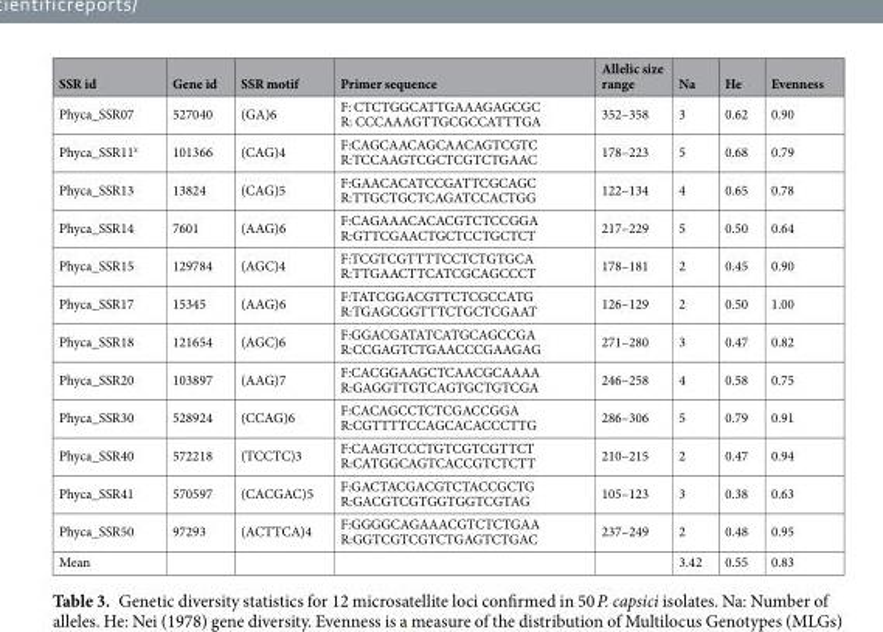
<table><thead><tr><td>SSR id</td><td>Gene id</td><td>SSR motif</td><td>Primer sequence</td><td>Allelic size range</td><td>Na</td><td>He</td><td>Evenness</td></tr></thead><tbody><tr><td>Phyca_SSR07</td><td>527040</td><td>(GA)6</td><td>F: CTCTGGCATTGAAAGAGCGC R: CCCAAAGTTGCGCCATTTGA</td><td>352–358</td><td>3</td><td>0.62</td><td>0.90</td></tr><tr><td>Phyca_SSR11<sup>z</sup></td><td>101366</td><td>(CAG)4</td><td>F:CAGCAACAGCAACAGTCGTC R:TCCAAGTCGCTCGTCTGAAC</td><td>178–223</td><td>5</td><td>0.68</td><td>0.79</td></tr><tr><td>Phyca_SSR13</td><td>13824</td><td>(CAG)5</td><td>F:GAACACATCCGATTCGCAGC R:TTGCTGCTCAGATCCACTGG</td><td>122–134</td><td>4</td><td>0.65</td><td>0.78</td></tr><tr><td>Phyca_SSR14</td><td>7601</td><td>(AAG)6</td><td>F:CAGAAACACACGTCTCCGGA R:GTTCGAACTGCTCCTGCTCT</td><td>217–229</td><td>5</td><td>0.50</td><td>0.64</td></tr><tr><td>Phyca_SSR15</td><td>129784</td><td>(AGC)4</td><td>F:TCGTCGTTTTCCTCTGTGCA R:TTGAACTTCATCGCAGCCCT</td><td>178–181</td><td>2</td><td>0.45</td><td>0.90</td></tr><tr><td>Phyca_SSR17</td><td>15345</td><td>(AAG)6</td><td>F:TATCGGACGTTCTCGCCATG R:TGAGCGGTTTCTGCTCGAAT</td><td>126–129</td><td>2</td><td>0.50</td><td>1.00</td></tr><tr><td>Phyca_SSR18</td><td>121654</td><td>(AGC)6</td><td>F:GGACGATATCATGCAGCCGA R:CCGAGTCTGAACCCGAAGAG</td><td>271–280</td><td>3</td><td>0.47</td><td>0.82</td></tr><tr><td>Phyca_SSR20</td><td>103897</td><td>(AAG)7</td><td>F:CACGGAAGCTCAACGCAAAA R:GAGGTTGTCAGTGCTGTCGA</td><td>246–258</td><td>4</td><td>0.58</td><td>0.75</td></tr><tr><td>Phyca_SSR30</td><td>528924</td><td>(CCAG)6</td><td>F:CACAGCCTCTCGACCGGA R:CGTTTTCCAGCACACCCTTG</td><td>286–306</td><td>5</td><td>0.79</td><td>0.91</td></tr><tr><td>Phyca_SSR40</td><td>572218</td><td>(TCCTC)3</td><td>F:CAAGTCCCTGTCGTCGTTCT R:CATGGCAGTCACCGTCTCTT</td><td>210–215</td><td>2</td><td>0.47</td><td>0.94</td></tr><tr><td>Phyca_SSR41</td><td>570597</td><td>(CACGAC)5</td><td>F:GACTACGACGTCTACCGCTG R:GACGTCGTGGTGGTCGTAG</td><td>105–123</td><td>3</td><td>0.38</td><td>0.63</td></tr><tr><td>Phyca_SSR50</td><td>97293</td><td>(ACTTCA)4</td><td>F:GGGGCAGAAACGTCTCTGAA R:GGTCGTCGTCTGAGTCTGAC</td><td>237–249</td><td>2</td><td>0.48</td><td>0.95</td></tr><tr><td>Mean</td><td></td><td></td><td></td><td></td><td>3.42</td><td>0.55</td><td>0.83</td></tr></tbody></table>